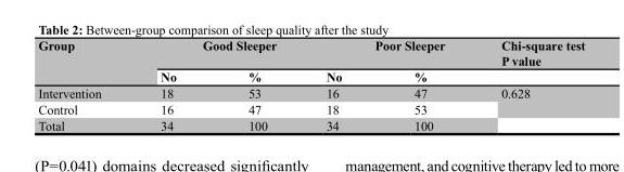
<table><thead><tr><td rowspan="2">Group</td><td colspan="2">Good Sleeper</td><td colspan="2">Poor Sleeper</td><td rowspan="2">Chi-square test P value</td></tr><tr><td>No</td><td>%</td><td>No</td><td>%</td></tr></thead><tbody><tr><td>Intervention</td><td>18</td><td>53</td><td>16</td><td>47</td><td rowspan="2">0.628</td></tr><tr><td>Control</td><td>16</td><td>47</td><td>18</td><td>53</td></tr><tr><td>Total</td><td>34</td><td>100</td><td>34</td><td>100</td><td></td></tr></tbody></table>